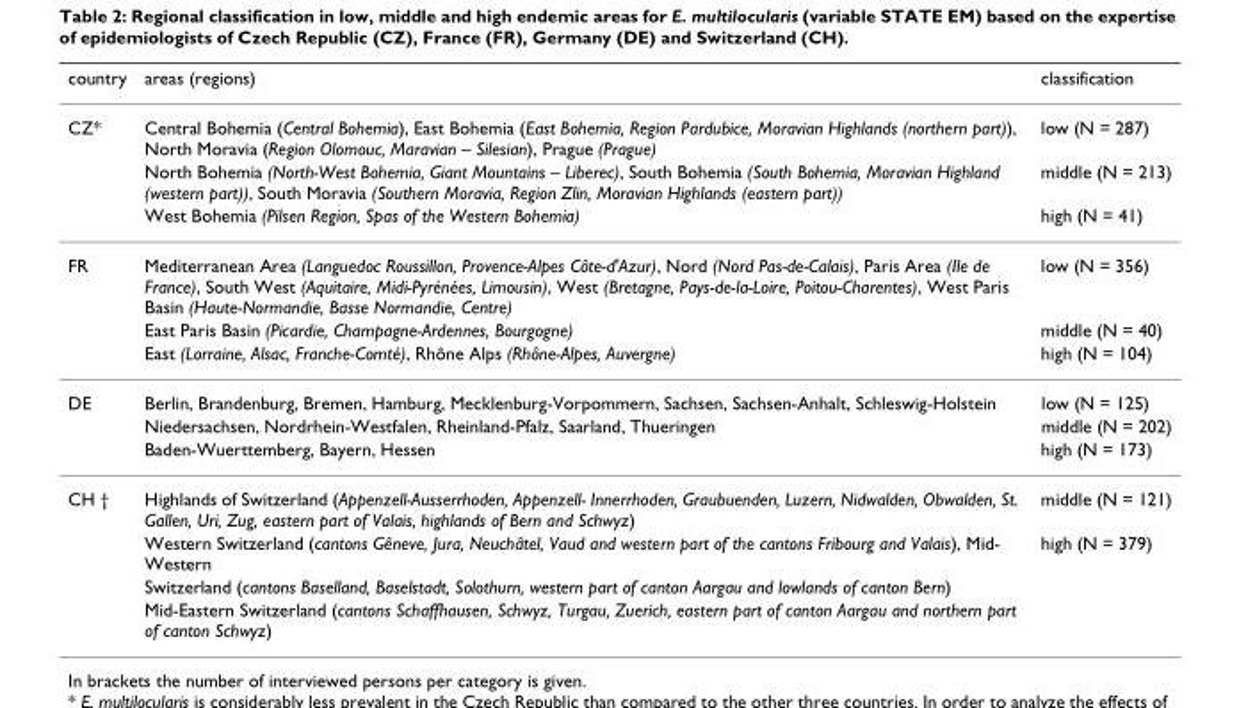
<table><thead><tr><td>country</td><td>areas (regions)</td><td>classification</td></tr></thead><tbody><tr><td rowspan="3">CZ*</td><td>Central Bohemia (Central Bohemia), East Bohemia (East Bohemia, Region Pardubice, Moravian Highlands (northern part)), North Moravia (Region Olomouc, Maravian – Silesian), Prague (Prague)</td><td>low (N = 287)</td></tr><tr><td>North Bohemia (North-West Bohemia, Giant Mountains – Liberec), South Bohemia (South Bohemia, Moravian Highland (western part)), South Moravia (Southern Moravia, Region Zlin, Moravian Highlands (eastern part))</td><td>middle (N = 213)</td></tr><tr><td>West Bohemia (Pilsen Region, Spas of the Western Bohemia)</td><td>high (N = 41)</td></tr><tr><td rowspan="3">FR</td><td>Mediterranean Area (Languedoc Roussillon, Provence-Alpes Côte-d&#x27;Azur), Nord (Nord Pas-de-Calais), Paris Area (Ile de France), South West (Aquitaire, Midi-Pyrénées, Limousin), West (Bretagne, Pays-de-la-Loire, Poitou-Charentes), West Paris Basin (Haute-Normandie, Basse Normandie, Centre)</td><td>low (N = 356)</td></tr><tr><td>East Paris Basin (Picardie, Champagne-Ardennes, Bourgogne)</td><td>middle (N = 40)</td></tr><tr><td>East (Lorraine, Alsac, Franche-Comté), Rhône Alps (Rhône-Alpes, Auvergne)</td><td>high (N = 104)</td></tr><tr><td rowspan="3">DE</td><td>Berlin, Brandenburg, Bremen, Hamburg, Mecklenburg-Vorpommern, Sachsen, Sachsen-Anhalt, Schleswig-Holstein</td><td>low (N = 125)</td></tr><tr><td>Niedersachsen, Nordrhein-Westfalen, Rheinland-Pfalz, Saarland, Thueringen</td><td>middle (N = 202)</td></tr><tr><td>Baden-Wuerttemberg, Bayern, Hessen</td><td>high (N = 173)</td></tr><tr><td rowspan="4">CH †</td><td>Highlands of Switzerland (Appenzell-Ausserrhoden, Appenzell- Innerrhoden, Graubuenden, Luzern, Nidwalden, Obwalden, St. Gallen, Uri, Zug, eastern part of Valais, highlands of Bern and Schwyz)</td><td>middle (N = 121)</td></tr><tr><td>Western Switzerland (cantons Gêneve, Jura, Neuchâtel, Vaud and western part of the cantons Fribourg and Valais), Mid- Western</td><td>high (N = 379)</td></tr><tr><td>Switzerland (cantons Baselland, Baselstadt, Solothurn, western part of canton Aargau and lowlands of canton Bern)</td><td></td></tr><tr><td>Mid-Eastern Switzerland (cantons Schaffhausen, Schwyz, Turgau, Zuerich, eastern part of canton Aargau and northern part of canton Schwyz)</td><td></td></tr></tbody></table>